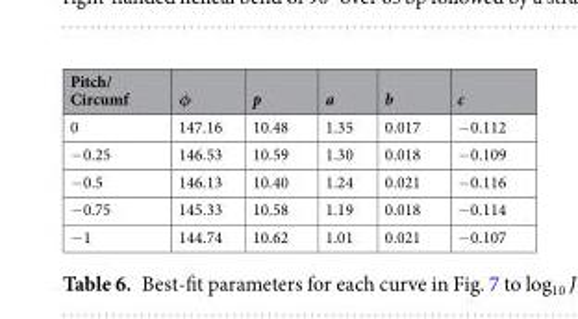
<table><thead><tr><td>Pitch/ Circumf</td><td>φ</td><td>p</td><td>a</td><td>b</td><td>c</td></tr></thead><tbody><tr><td>0</td><td>147.16</td><td>10.48</td><td>1.35</td><td>0.017</td><td>−0.112</td></tr><tr><td>−0.25</td><td>146.53</td><td>10.59</td><td>1.30</td><td>0.018</td><td>−0.109</td></tr><tr><td>−0.5</td><td>146.13</td><td>10.40</td><td>1.24</td><td>0.021</td><td>−0.116</td></tr><tr><td>−0.75</td><td>145.33</td><td>10.58</td><td>1.19</td><td>0.018</td><td>−0.114</td></tr><tr><td>−1</td><td>144.74</td><td>10.62</td><td>1.01</td><td>0.021</td><td>−0.107</td></tr></tbody></table>